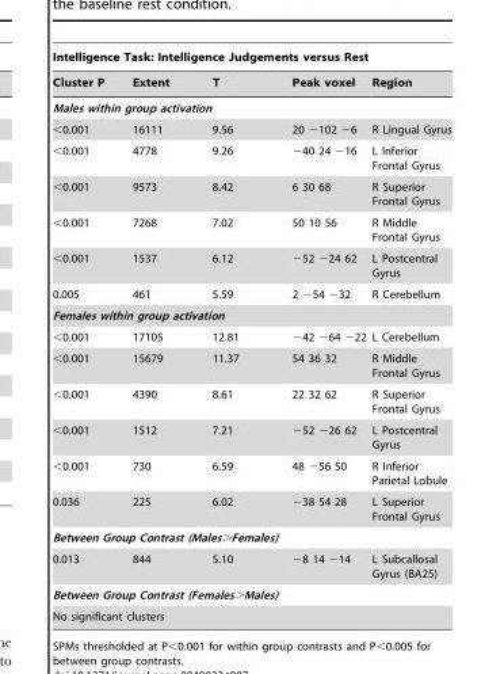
<table><thead><tr><td colspan="5">Intelligence Task: Intelligence Judgements versus Rest</td></tr><tr><td>Cluster P</td><td>Extent</td><td>T</td><td>Peak voxel</td><td>Region</td></tr></thead><tbody><tr><td colspan="5">Males within group activation</td></tr><tr><td>&lt;0.001</td><td>16111</td><td>9.56</td><td>20 −102 −6</td><td>R Lingual Gyrus</td></tr><tr><td>&lt;0.001</td><td>4778</td><td>9.26</td><td>−40 24 −16</td><td>L Inferior Frontal Gyrus</td></tr><tr><td>&lt;0.001</td><td>9573</td><td>8.42</td><td>6 30 68</td><td>R Superior Frontal Gyrus</td></tr><tr><td>&lt;0.001</td><td>7268</td><td>7.02</td><td>50 10 56</td><td>R Middle Frontal Gyrus</td></tr><tr><td>&lt;0.001</td><td>1537</td><td>6.12</td><td>−52 −24 62</td><td>L Postcentral Gyrus</td></tr><tr><td>0.005</td><td>461</td><td>5.59</td><td>2 −54 −32</td><td>R Cerebellum</td></tr><tr><td colspan="5">Females within group activation</td></tr><tr><td>&lt;0.001</td><td>17105</td><td>12.81</td><td>−42 −64 −22</td><td>L Cerebellum</td></tr><tr><td>&lt;0.001</td><td>15679</td><td>11.37</td><td>54 36 32</td><td>R Middle Frontal Gyrus</td></tr><tr><td>&lt;0.001</td><td>4390</td><td>8.61</td><td>22 32 62</td><td>R Superior Frontal Gyrus</td></tr><tr><td>&lt;0.001</td><td>1512</td><td>7.21</td><td>−52 −26 62</td><td>L Postcentral Gyrus</td></tr><tr><td>&lt;0.001</td><td>730</td><td>6.59</td><td>48 −56 50</td><td>R Inferior Parietal Lobule</td></tr><tr><td>0.036</td><td>225</td><td>6.02</td><td>−38 54 28</td><td>L Superior Frontal Gyrus</td></tr><tr><td colspan="5">Between Group Contrast (Males&gt;Females)</td></tr><tr><td>0.013</td><td>844</td><td>5.10</td><td>−8 14 −14</td><td>L Subcallosal Gyrus (BA25)</td></tr><tr><td colspan="5">Between Group Contrast (Females&gt;Males)</td></tr><tr><td colspan="5">No significant clusters</td></tr></tbody></table>